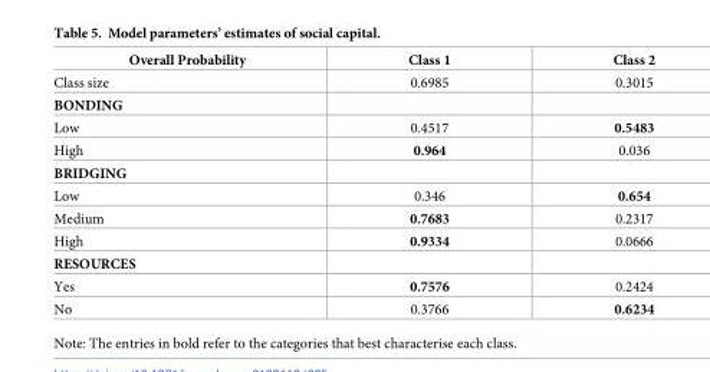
<table><thead><tr><td>Overall Probability</td><td>Class 1</td><td>Class 2</td></tr></thead><tbody><tr><td>Class size</td><td>0.6985</td><td>0.3015</td></tr><tr><td colspan="3">BONDING</td></tr><tr><td>Low</td><td>0.4517</td><td>0.5483</td></tr><tr><td>High</td><td>0.964</td><td>0.036</td></tr><tr><td colspan="3">BRIDGING</td></tr><tr><td>Low</td><td>0.346</td><td>0.654</td></tr><tr><td>Medium</td><td>0.7683</td><td>0.2317</td></tr><tr><td>High</td><td>0.9334</td><td>0.0666</td></tr><tr><td colspan="3">RESOURCES</td></tr><tr><td>Yes</td><td>0.7576</td><td>0.2424</td></tr><tr><td>No</td><td>0.3766</td><td>0.6234</td></tr></tbody></table>